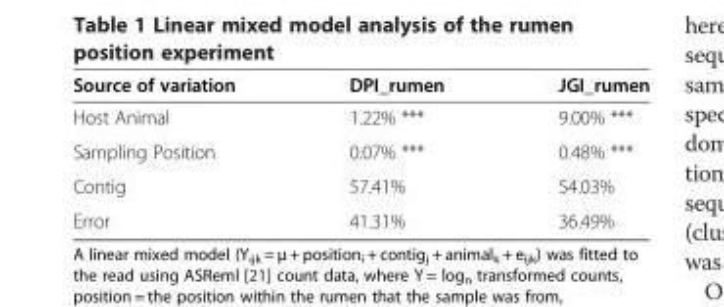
<table><thead><tr><td>Source of variation</td><td>DPI_rumen</td><td>JGI_rumen</td></tr></thead><tbody><tr><td>Host Animal</td><td>1.22% ***</td><td>9.00% ***</td></tr><tr><td>Sampling Position</td><td>0.07% ***</td><td>0.48% ***</td></tr><tr><td>Contig</td><td>57.41%</td><td>54.03%</td></tr><tr><td>Error</td><td>41.31%</td><td>36.49%</td></tr></tbody></table>